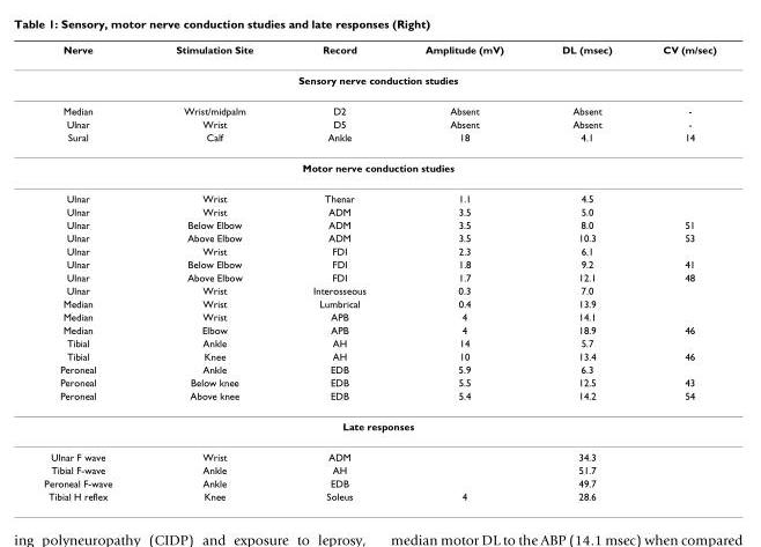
<table><thead><tr><td>Nerve</td><td>Stimulation Site</td><td>Record</td><td>Amplitude (mV)</td><td>DL (msec)</td><td>CV (m/sec)</td></tr></thead><tbody><tr><td colspan="6">Sensory nerve conduction studies</td></tr><tr><td>Median</td><td>Wrist/midpalm</td><td>D2</td><td>Absent</td><td>Absent</td><td>-</td></tr><tr><td>Ulnar</td><td>Wrist</td><td>D5</td><td>Absent</td><td>Absent</td><td>-</td></tr><tr><td>Sural</td><td>Calf</td><td>Ankle</td><td>18</td><td>4.1</td><td>14</td></tr><tr><td colspan="6">Motor nerve conduction studies</td></tr><tr><td>Ulnar</td><td>Wrist</td><td>Thenar</td><td>1.1</td><td>4.5</td><td></td></tr><tr><td>Ulnar</td><td>Wrist</td><td>ADM</td><td>3.5</td><td>5.0</td><td></td></tr><tr><td>Ulnar</td><td>Below Elbow</td><td>ADM</td><td>3.5</td><td>8.0</td><td>51</td></tr><tr><td>Ulnar</td><td>Above Elbow</td><td>ADM</td><td>3.5</td><td>10.3</td><td>53</td></tr><tr><td>Ulnar</td><td>Wrist</td><td>FDI</td><td>2.3</td><td>6.1</td><td></td></tr><tr><td>Ulnar</td><td>Below Elbow</td><td>FDI</td><td>1.8</td><td>9.2</td><td>41</td></tr><tr><td>Ulnar</td><td>Above Elbow</td><td>FDI</td><td>1.7</td><td>12.1</td><td>48</td></tr><tr><td>Ulnar</td><td>Wrist</td><td>Interosseous</td><td>0.3</td><td>7.0</td><td></td></tr><tr><td>Median</td><td>Wrist</td><td>Lumbrical</td><td>0.4</td><td>13.9</td><td></td></tr><tr><td>Median</td><td>Wrist</td><td>APB</td><td>4</td><td>14.1</td><td></td></tr><tr><td>Median</td><td>Elbow</td><td>APB</td><td>4</td><td>18.9</td><td>46</td></tr><tr><td>Tibial</td><td>Ankle</td><td>AH</td><td>14</td><td>5.7</td><td></td></tr><tr><td>Tibial</td><td>Knee</td><td>AH</td><td>10</td><td>13.4</td><td>46</td></tr><tr><td>Peroneal</td><td>Ankle</td><td>EDB</td><td>5.9</td><td>6.3</td><td></td></tr><tr><td>Peroneal</td><td>Below knee</td><td>EDB</td><td>5.5</td><td>12.5</td><td>43</td></tr><tr><td>Peroneal</td><td>Above knee</td><td>EDB</td><td>5.4</td><td>14.2</td><td>54</td></tr><tr><td colspan="6">Late responses</td></tr><tr><td>Ulnar F wave</td><td>Wrist</td><td>ADM</td><td></td><td>34.3</td><td></td></tr><tr><td>Tibial F-wave</td><td>Ankle</td><td>AH</td><td></td><td>51.7</td><td></td></tr><tr><td>Peroneal F-wave</td><td>Ankle</td><td>EDB</td><td></td><td>49.7</td><td></td></tr><tr><td>Tibial H reflex</td><td>Knee</td><td>Soleus</td><td>4</td><td>28.6</td><td></td></tr></tbody></table>